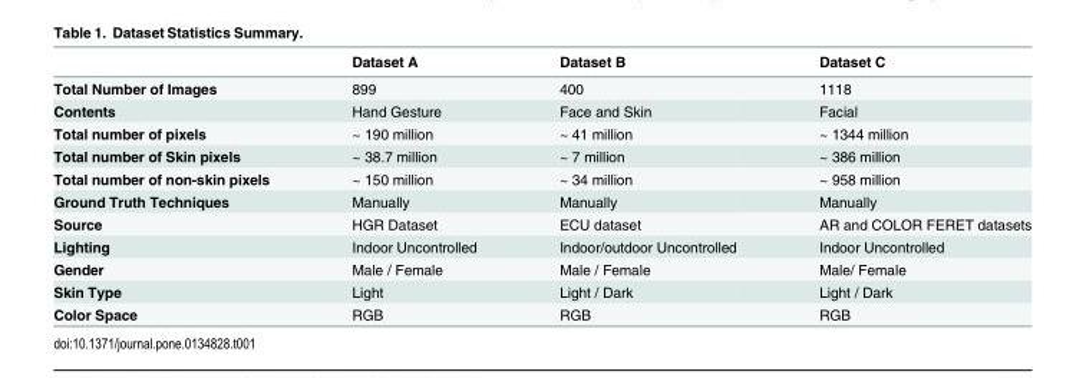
<table><thead><tr><td></td><td>Dataset A</td><td>Dataset B</td><td>Dataset C</td></tr></thead><tbody><tr><td>Total Number of Images</td><td>899</td><td>400</td><td>1118</td></tr><tr><td>Contents</td><td>Hand Gesture</td><td>Face and Skin</td><td>Facial</td></tr><tr><td>Total number of pixels</td><td>~ 190 million</td><td>~ 41 million</td><td>~ 1344 million</td></tr><tr><td>Total number of Skin pixels</td><td>~ 38.7 million</td><td>~ 7 million</td><td>~ 386 million</td></tr><tr><td>Total number of non-skin pixels</td><td>~ 150 million</td><td>~ 34 million</td><td>~ 958 million</td></tr><tr><td>Ground Truth Techniques</td><td>Manually</td><td>Manually</td><td>Manually</td></tr><tr><td>Source</td><td>HGR Dataset</td><td>ECU dataset</td><td>AR and COLOR FERET datasets</td></tr><tr><td>Lighting</td><td>Indoor Uncontrolled</td><td>Indoor/outdoor Uncontrolled</td><td>Indoor Uncontrolled</td></tr><tr><td>Gender</td><td>Male / Female</td><td>Male / Female</td><td>Male/ Female</td></tr><tr><td>Skin Type</td><td>Light</td><td>Light / Dark</td><td>Light / Dark</td></tr><tr><td>Color Space</td><td>RGB</td><td>RGB</td><td>RGB</td></tr></tbody></table>